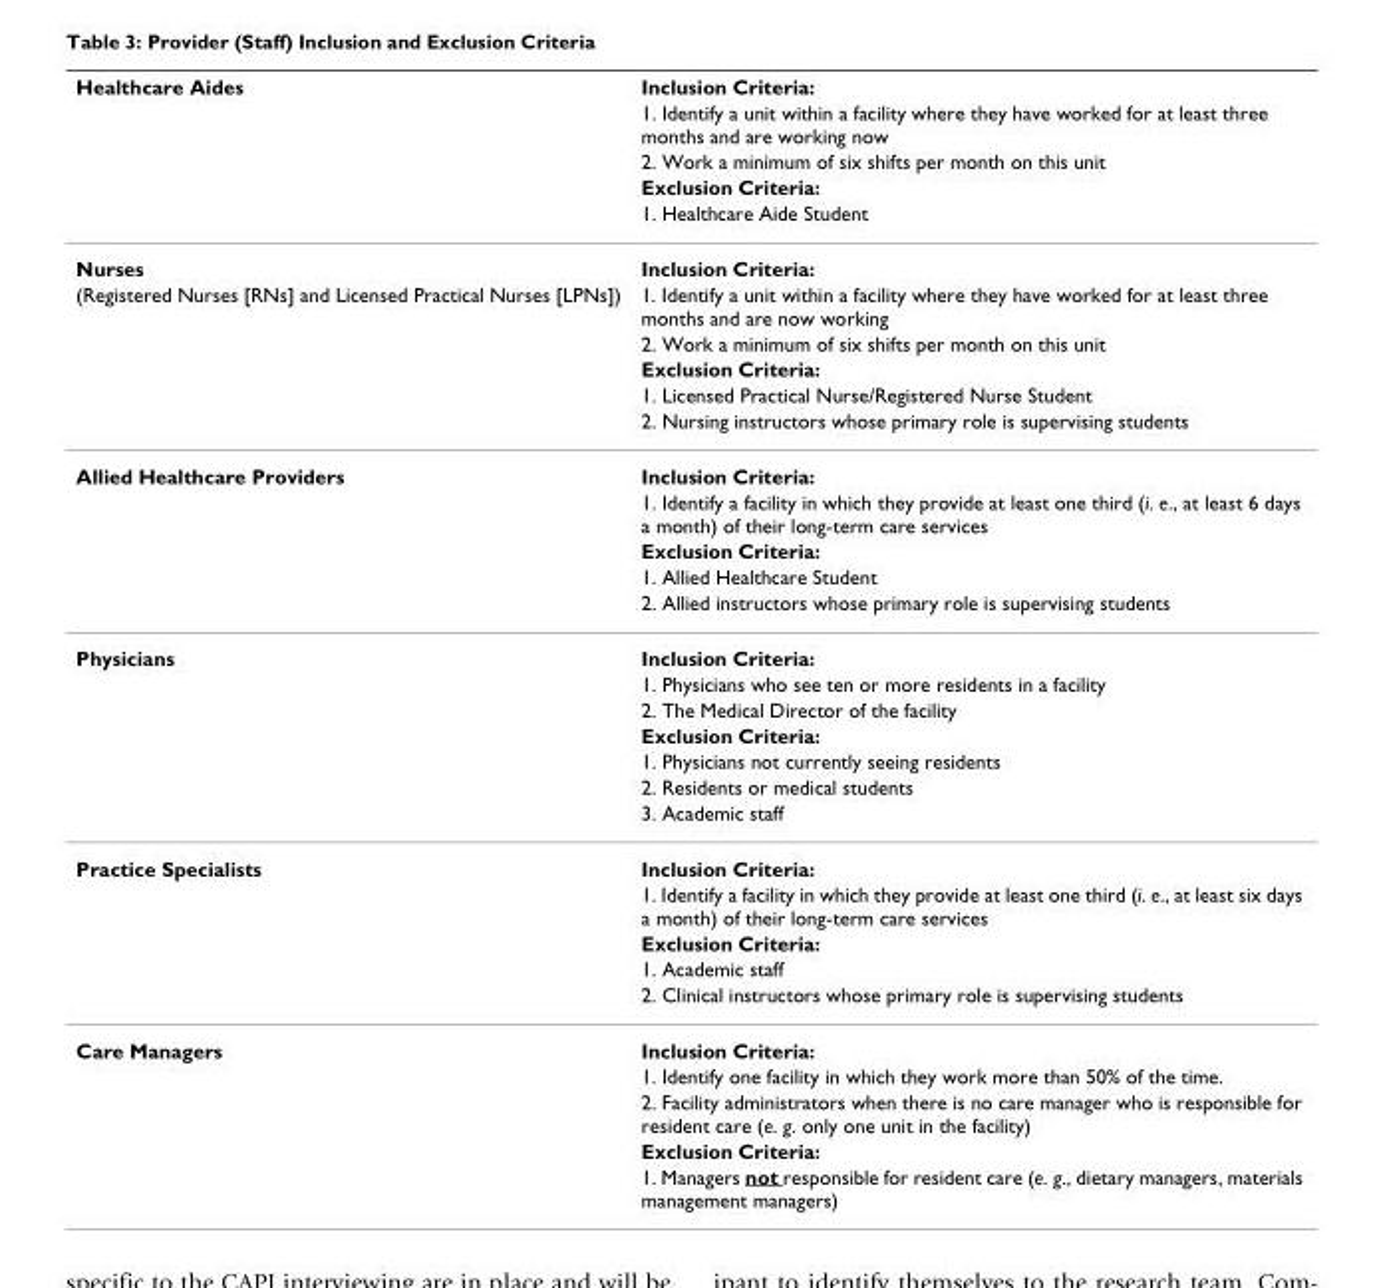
<table><thead><tr><td rowspan="5">Healthcare Aides</td><td rowspan="5">Inclusion Criteria: 1. Identify a unit within a facility where they have worked for at least three months and are working now 2. Work a minimum of six shifts per month on this unit Exclusion Criteria: 1. Healthcare Aide Student</td></tr><tr></tr><tr></tr><tr></tr><tr></tr></thead><tbody><tr><td>Nurses</td><td>Inclusion Criteria:</td></tr><tr><td rowspan="5">(Registered Nurses [RNs] and Licensed Practical Nurses [LPNs])</td><td>1. Identify a unit within a facility where they have worked for at least three months and are now working</td></tr><tr><td>2. Work a minimum of six shifts per month on this unit</td></tr><tr><td>Exclusion Criteria:</td></tr><tr><td>1. Licensed Practical Nurse/Registered Nurse Student</td></tr><tr><td>2. Nursing instructors whose primary role is supervising students</td></tr><tr><td rowspan="5">Allied Healthcare Providers</td><td>Inclusion Criteria:</td></tr><tr><td>1. Identify a facility in which they provide at least one third (i. e., at least 6 days a month) of their long-term care services</td></tr><tr><td>Exclusion Criteria:</td></tr><tr><td>1. Allied Healthcare Student</td></tr><tr><td>2. Allied instructors whose primary role is supervising students</td></tr><tr><td rowspan="7">Physicians</td><td>Inclusion Criteria:</td></tr><tr><td>1. Physicians who see ten or more residents in a facility</td></tr><tr><td>2. The Medical Director of the facility</td></tr><tr><td>Exclusion Criteria:</td></tr><tr><td>1. Physicians not currently seeing residents</td></tr><tr><td>2. Residents or medical students</td></tr><tr><td>3. Academic staff</td></tr><tr><td rowspan="5">Practice Specialists</td><td>Inclusion Criteria:</td></tr><tr><td>1. Identify a facility in which they provide at least one third (i. e., at least six days a month) of their long-term care services</td></tr><tr><td>Exclusion Criteria:</td></tr><tr><td>1. Academic staff</td></tr><tr><td>2. Clinical instructors whose primary role is supervising students</td></tr><tr><td rowspan="5">Care Managers</td><td>Inclusion Criteria:</td></tr><tr><td>1. Identify one facility in which they work more than 50% of the time.</td></tr><tr><td>2. Facility administrators when there is no care manager who is responsible for resident care (e. g. only one unit in the facility)</td></tr><tr><td>Exclusion Criteria:</td></tr><tr><td>1. Managers not responsible for resident care (e. g., dietary managers, materials management managers)</td></tr></tbody></table>